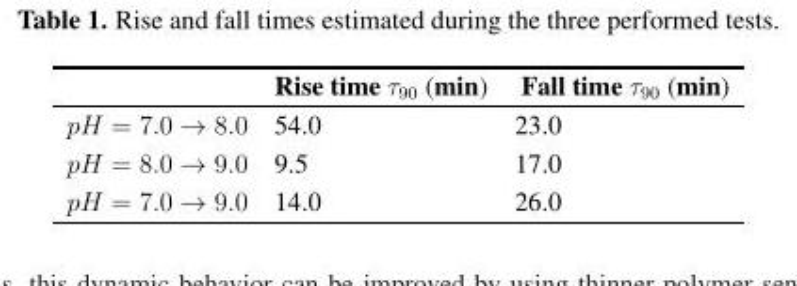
<table><thead><tr><td></td><td>Rise time τ<sub>90</sub> (min)</td><td>Fall time τ<sub>90</sub> (min)</td></tr></thead><tbody><tr><td>pH = 7.0 → 8.0</td><td>54.0</td><td>23.0</td></tr><tr><td>pH = 8.0 → 9.0</td><td>9.5</td><td>17.0</td></tr><tr><td>pH = 7.0 → 9.0</td><td>14.0</td><td>26.0</td></tr></tbody></table>